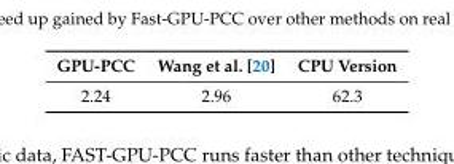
<table><thead><tr><td>GPU-PCC</td><td>Wang et al. [20]</td><td>CPU Version</td></tr></thead><tbody><tr><td>2.24</td><td>2.96</td><td>62.3</td></tr></tbody></table>